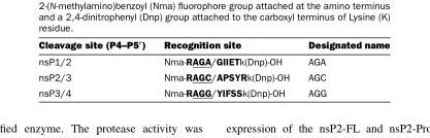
<table><thead><tr><td>Cleavage site (P4–P5′)</td><td>Recognition site</td><td>Designated name</td></tr></thead><tbody><tr><td>nsP1/2</td><td>Nma-RAGA/GIIETk(Dnp)-OH</td><td>AGA</td></tr><tr><td>nsP2/3</td><td>Nma-RAGC/APSYRk(Dnp)-OH</td><td>AGC</td></tr><tr><td>nsP3/4</td><td>Nma-RAGG/YIFSSk(Dnp)-OH</td><td>AGG</td></tr></tbody></table>